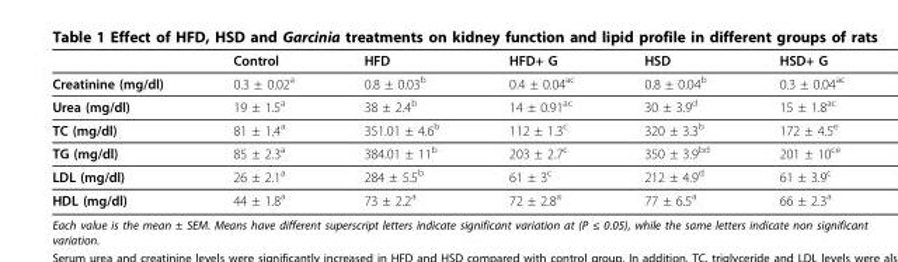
<table><thead><tr><td></td><td>Control</td><td>HFD</td><td>HFD+ G</td><td>HSD</td><td>HSD+ G</td></tr></thead><tbody><tr><td>Creatinine (mg/dl)</td><td>0.3 ± 0.02<sup>a</sup></td><td>0.8 ± 0.03<sup>b</sup></td><td>0.4 ± 0.04<sup>ac</sup></td><td>0.8 ± 0.04<sup>b</sup></td><td>0.3 ± 0.04<sup>ac</sup></td></tr><tr><td>Urea (mg/dl)</td><td>19 ± 1.5<sup>a</sup></td><td>38 ± 2.4<sup>b</sup></td><td>14 ± 0.91<sup>ac</sup></td><td>30 ± 3.9<sup>d</sup></td><td>15 ± 1.8<sup>ac</sup></td></tr><tr><td>TC (mg/dl)</td><td>81 ± 1.4<sup>a</sup></td><td>351.01 ± 4.6<sup>b</sup></td><td>112 ± 1.3<sup>c</sup></td><td>320 ± 3.3<sup>b</sup></td><td>172 ± 4.5<sup>e</sup></td></tr><tr><td>TG (mg/dl)</td><td>85 ± 2.3<sup>a</sup></td><td>384.01 ± 11<sup>b</sup></td><td>203 ± 2.7<sup>c</sup></td><td>350 ± 3.9<sup>bd</sup></td><td>201 ± 10<sup>ce</sup></td></tr><tr><td>LDL (mg/dl)</td><td>26 ± 2.1<sup>a</sup></td><td>284 ± 5.5<sup>b</sup></td><td>61 ± 3<sup>c</sup></td><td>212 ± 4.9<sup>d</sup></td><td>61 ± 3.9<sup>c</sup></td></tr><tr><td>HDL (mg/dl)</td><td>44 ± 1.8<sup>a</sup></td><td>73 ± 2.2<sup>a</sup></td><td>72 ± 2.8<sup>a</sup></td><td>77 ± 6.5<sup>a</sup></td><td>66 ± 2.3<sup>a</sup></td></tr></tbody></table>